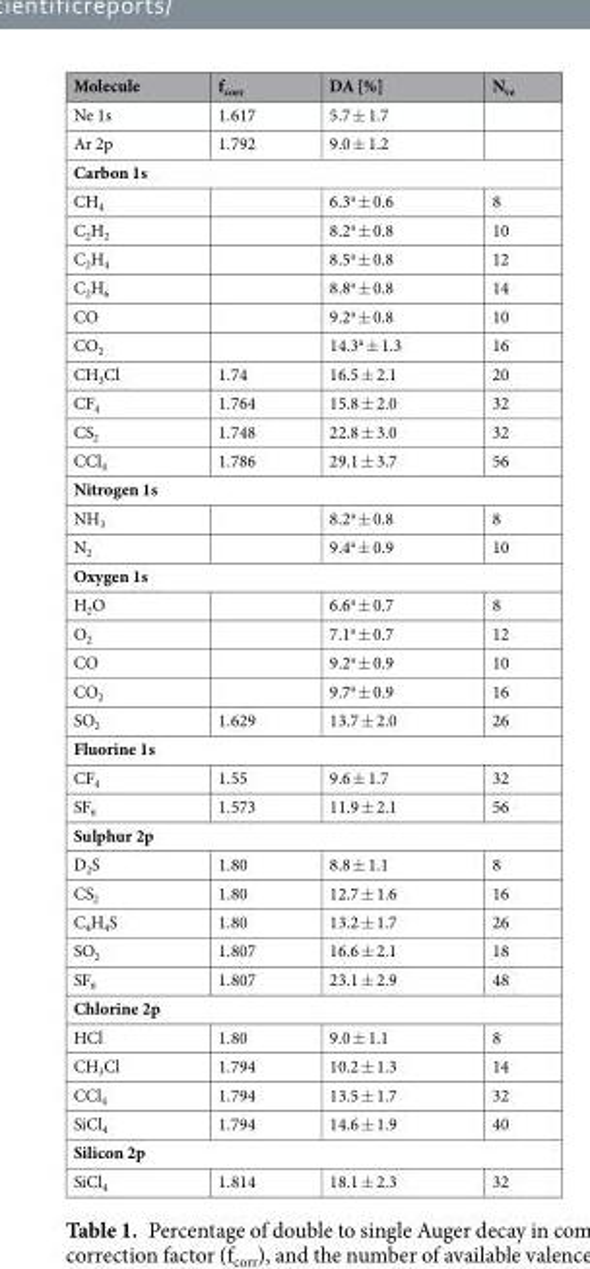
<table><thead><tr><td>Molecule</td><td>f<sub>corr</sub></td><td>DA [%]</td><td>N<sub>ve</sub></td></tr></thead><tbody><tr><td>Ne 1s</td><td>1.617</td><td>5.7 ± 1.7</td><td></td></tr><tr><td>Ar 2p</td><td>1.792</td><td>9.0 ± 1.2</td><td></td></tr><tr><td colspan="4">Carbon 1s</td></tr><tr><td>CH<sub>4</sub></td><td></td><td>6.3<sup>a</sup> ± 0.6</td><td>8</td></tr><tr><td>C<sub>2</sub>H<sub>2</sub></td><td></td><td>8.2<sup>a</sup> ± 0.8</td><td>10</td></tr><tr><td>C<sub>2</sub>H<sub>4</sub></td><td></td><td>8.5<sup>a</sup> ± 0.8</td><td>12</td></tr><tr><td>C<sub>2</sub>H<sub>6</sub></td><td></td><td>8.8<sup>a</sup> ± 0.8</td><td>14</td></tr><tr><td>CO</td><td></td><td>9.2<sup>a</sup> ± 0.8</td><td>10</td></tr><tr><td>CO<sub>2</sub></td><td></td><td>14.3<sup>a</sup> ± 1.3</td><td>16</td></tr><tr><td>CH<sub>3</sub>Cl</td><td>1.74</td><td>16.5 ± 2.1</td><td>20</td></tr><tr><td>CF<sub>4</sub></td><td>1.764</td><td>15.8 ± 2.0</td><td>32</td></tr><tr><td>CS<sub>2</sub></td><td>1.748</td><td>22.8 ± 3.0</td><td>32</td></tr><tr><td>CCl<sub>4</sub></td><td>1.786</td><td>29.1 ± 3.7</td><td>56</td></tr><tr><td colspan="4">Nitrogen 1s</td></tr><tr><td>NH<sub>3</sub></td><td></td><td>8.2<sup>a</sup> ± 0.8</td><td>8</td></tr><tr><td>N<sub>2</sub></td><td></td><td>9.4<sup>a</sup> ± 0.9</td><td>10</td></tr><tr><td colspan="4">Oxygen 1s</td></tr><tr><td>H<sub>2</sub>O</td><td></td><td>6.6<sup>a</sup> ± 0.7</td><td>8</td></tr><tr><td>O<sub>2</sub></td><td></td><td>7.1<sup>a</sup> ± 0.7</td><td>12</td></tr><tr><td>CO</td><td></td><td>9.2<sup>a</sup> ± 0.9</td><td>10</td></tr><tr><td>CO<sub>2</sub></td><td></td><td>9.7<sup>a</sup> ± 0.9</td><td>16</td></tr><tr><td>SO<sub>2</sub></td><td>1.629</td><td>13.7 ± 2.0</td><td>26</td></tr><tr><td colspan="4">Fluorine 1s</td></tr><tr><td>CF<sub>4</sub></td><td>1.55</td><td>9.6 ± 1.7</td><td>32</td></tr><tr><td>SF<sub>6</sub></td><td>1.573</td><td>11.9 ± 2.1</td><td>56</td></tr><tr><td colspan="4">Sulphur 2p</td></tr><tr><td>D<sub>2</sub>S</td><td>1.80</td><td>8.8 ± 1.1</td><td>8</td></tr><tr><td>CS<sub>2</sub></td><td>1.80</td><td>12.7 ± 1.6</td><td>16</td></tr><tr><td>C<sub>4</sub>H<sub>4</sub>S</td><td>1.80</td><td>13.2 ± 1.7</td><td>26</td></tr><tr><td>SO<sub>2</sub></td><td>1.807</td><td>16.6 ± 2.1</td><td>18</td></tr><tr><td>SF<sub>6</sub></td><td>1.807</td><td>23.1 ± 2.9</td><td>48</td></tr><tr><td colspan="4">Chlorine 2p</td></tr><tr><td>HCl</td><td>1.80</td><td>9.0 ± 1.1</td><td>8</td></tr><tr><td>CH<sub>3</sub>Cl</td><td>1.794</td><td>10.2 ± 1.3</td><td>14</td></tr><tr><td>CCl<sub>4</sub></td><td>1.794</td><td>13.5 ± 1.7</td><td>32</td></tr><tr><td>SiCl<sub>4</sub></td><td>1.794</td><td>14.6 ± 1.9</td><td>40</td></tr><tr><td colspan="4">Silicon 2p</td></tr><tr><td>SiCl<sub>4</sub></td><td>1.814</td><td>18.1 ± 2.3</td><td>32</td></tr></tbody></table>